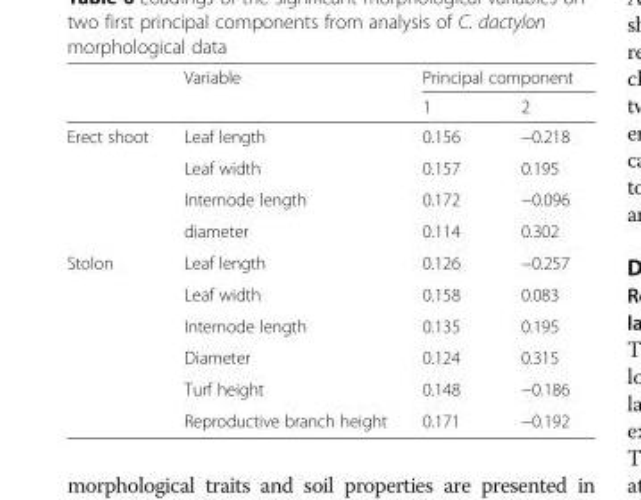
<table><thead><tr><td rowspan="2"></td><td rowspan="2">Variable</td><td colspan="2">Principal component</td></tr><tr><td>1</td><td>2</td></tr></thead><tbody><tr><td rowspan="4">Erect shoot</td><td>Leaf length</td><td>0.156</td><td>−0.218</td></tr><tr><td>Leaf width</td><td>0.157</td><td>0.195</td></tr><tr><td>Internode length</td><td>0.172</td><td>−0.096</td></tr><tr><td>diameter</td><td>0.114</td><td>0.302</td></tr><tr><td rowspan="6">Stolon</td><td>Leaf length</td><td>0.126</td><td>−0.257</td></tr><tr><td>Leaf width</td><td>0.158</td><td>0.083</td></tr><tr><td>Internode length</td><td>0.135</td><td>0.195</td></tr><tr><td>Diameter</td><td>0.124</td><td>0.315</td></tr><tr><td>Turf height</td><td>0.148</td><td>−0.186</td></tr><tr><td>Reproductive branch height</td><td>0.171</td><td>−0.192</td></tr></tbody></table>